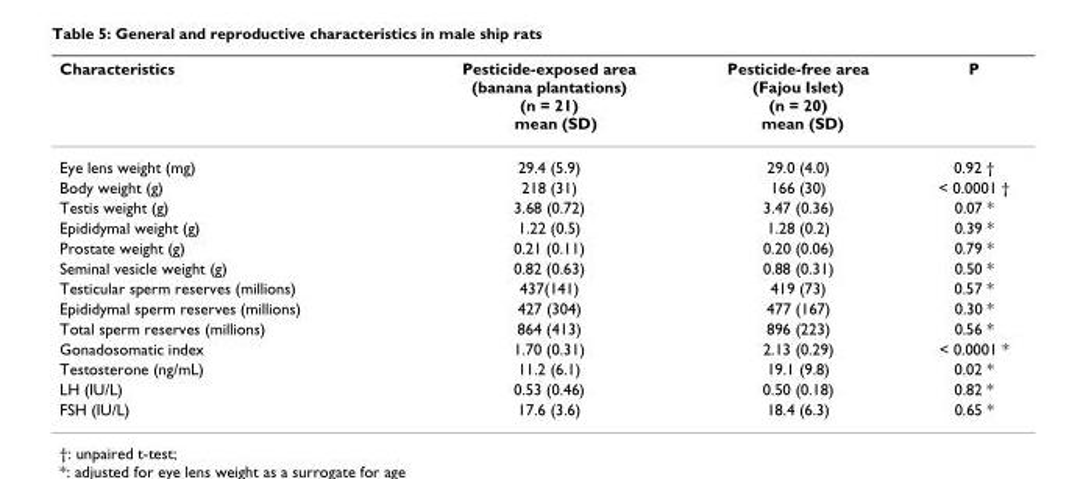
<table><thead><tr><td>Characteristics</td><td>Pesticide-exposed area (banana plantations) (n = 21) mean (SD)</td><td>Pesticide-free area (Fajou Islet) (n = 20) mean (SD)</td><td>P</td></tr></thead><tbody><tr><td>Eye lens weight (mg)</td><td>29.4 (5.9)</td><td>29.0 (4.0)</td><td>0.92 †</td></tr><tr><td>Body weight (g)</td><td>218 (31)</td><td>166 (30)</td><td>&lt; 0.0001 †</td></tr><tr><td>Testis weight (g)</td><td>3.68 (0.72)</td><td>3.47 (0.36)</td><td>0.07 *</td></tr><tr><td>Epididymal weight (g)</td><td>1.22 (0.5)</td><td>1.28 (0.2)</td><td>0.39 *</td></tr><tr><td>Prostate weight (g)</td><td>0.21 (0.11)</td><td>0.20 (0.06)</td><td>0.79 *</td></tr><tr><td>Seminal vesicle weight (g)</td><td>0.82 (0.63)</td><td>0.88 (0.31)</td><td>0.50 *</td></tr><tr><td>Testicular sperm reserves (millions)</td><td>437(141)</td><td>419 (73)</td><td>0.57 *</td></tr><tr><td>Epididymal sperm reserves (millions)</td><td>427 (304)</td><td>477 (167)</td><td>0.30 *</td></tr><tr><td>Total sperm reserves (millions)</td><td>864 (413)</td><td>896 (223)</td><td>0.56 *</td></tr><tr><td>Gonadosomatic index</td><td>1.70 (0.31)</td><td>2.13 (0.29)</td><td>&lt; 0.0001 *</td></tr><tr><td>Testosterone (ng/mL)</td><td>11.2 (6.1)</td><td>19.1 (9.8)</td><td>0.02 *</td></tr><tr><td>LH (IU/L)</td><td>0.53 (0.46)</td><td>0.50 (0.18)</td><td>0.82 *</td></tr><tr><td>FSH (IU/L)</td><td>17.6 (3.6)</td><td>18.4 (6.3)</td><td>0.65 *</td></tr></tbody></table>